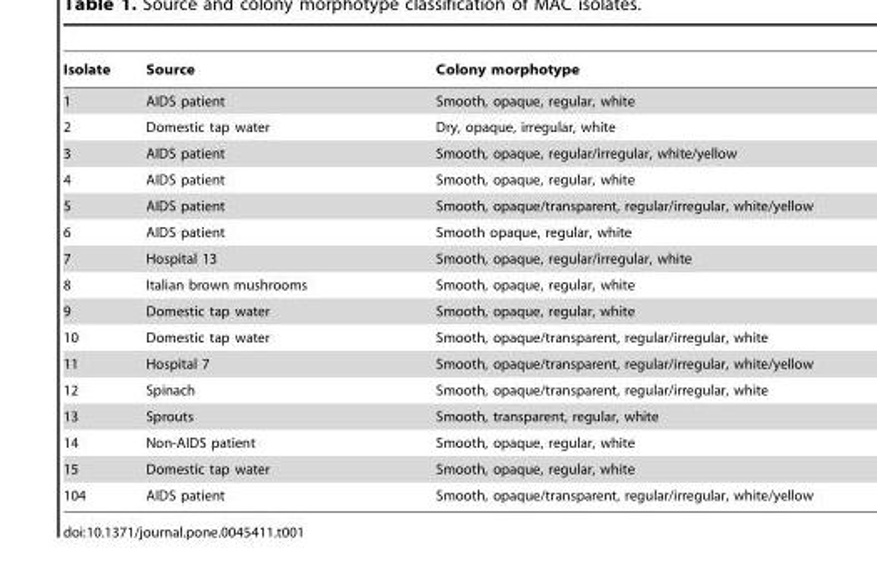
<table><thead><tr><td>Isolate</td><td>Source</td><td>Colony morphotype</td></tr></thead><tbody><tr><td>1</td><td>AIDS patient</td><td>Smooth, opaque, regular, white</td></tr><tr><td>2</td><td>Domestic tap water</td><td>Dry, opaque, irregular, white</td></tr><tr><td>3</td><td>AIDS patient</td><td>Smooth, opaque, regular/irregular, white/yellow</td></tr><tr><td>4</td><td>AIDS patient</td><td>Smooth, opaque, regular, white</td></tr><tr><td>5</td><td>AIDS patient</td><td>Smooth, opaque/transparent, regular/irregular, white/yellow</td></tr><tr><td>6</td><td>AIDS patient</td><td>Smooth opaque, regular, white</td></tr><tr><td>7</td><td>Hospital 13</td><td>Smooth, opaque, regular/irregular, white</td></tr><tr><td>8</td><td>Italian brown mushrooms</td><td>Smooth, opaque, regular, white</td></tr><tr><td>9</td><td>Domestic tap water</td><td>Smooth, opaque, regular, white</td></tr><tr><td>10</td><td>Domestic tap water</td><td>Smooth, opaque/transparent, regular/irregular, white</td></tr><tr><td>11</td><td>Hospital 7</td><td>Smooth, opaque/transparent, regular/irregular, white/yellow</td></tr><tr><td>12</td><td>Spinach</td><td>Smooth, opaque/transparent, regular/irregular, white</td></tr><tr><td>13</td><td>Sprouts</td><td>Smooth, transparent, regular, white</td></tr><tr><td>14</td><td>Non-AIDS patient</td><td>Smooth, opaque, regular, white</td></tr><tr><td>15</td><td>Domestic tap water</td><td>Smooth, opaque, regular, white</td></tr><tr><td>104</td><td>AIDS patient</td><td>Smooth, opaque/transparent, regular/irregular, white/yellow</td></tr></tbody></table>